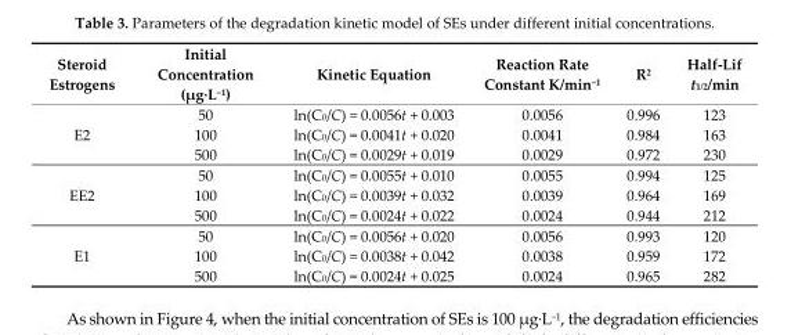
<table><thead><tr><td>Steroid Estrogens</td><td>Initial Concentration (μg·L<sup>−1</sup>)</td><td>Kinetic Equation</td><td>Reaction Rate Constant K/min<sup>−1</sup></td><td>R<sup>2</sup></td><td>Half-Lif t<sub>1/2</sub>/min</td></tr></thead><tbody><tr><td rowspan="3">E2</td><td>50</td><td>ln(C<sub>0</sub>/C) = 0.0056t + 0.003</td><td>0.0056</td><td>0.996</td><td>123</td></tr><tr><td>100</td><td>ln(C<sub>0</sub>/C) = 0.0041t + 0.020</td><td>0.0041</td><td>0.984</td><td>163</td></tr><tr><td>500</td><td>ln(C<sub>0</sub>/C) = 0.0029t + 0.019</td><td>0.0029</td><td>0.972</td><td>230</td></tr><tr><td rowspan="3">EE2</td><td>50</td><td>ln(C<sub>0</sub>/C) = 0.0055t + 0.010</td><td>0.0055</td><td>0.994</td><td>125</td></tr><tr><td>100</td><td>ln(C<sub>0</sub>/C) = 0.0039t + 0.032</td><td>0.0039</td><td>0.964</td><td>169</td></tr><tr><td>500</td><td>ln(C<sub>0</sub>/C) = 0.0024t + 0.022</td><td>0.0024</td><td>0.944</td><td>212</td></tr><tr><td rowspan="3">E1</td><td>50</td><td>ln(C<sub>0</sub>/C) = 0.0056t + 0.020</td><td>0.0056</td><td>0.993</td><td>120</td></tr><tr><td>100</td><td>ln(C<sub>0</sub>/C) = 0.0038t + 0.042</td><td>0.0038</td><td>0.959</td><td>172</td></tr><tr><td>500</td><td>ln(C<sub>0</sub>/C) = 0.0024t + 0.025</td><td>0.0024</td><td>0.965</td><td>282</td></tr></tbody></table>